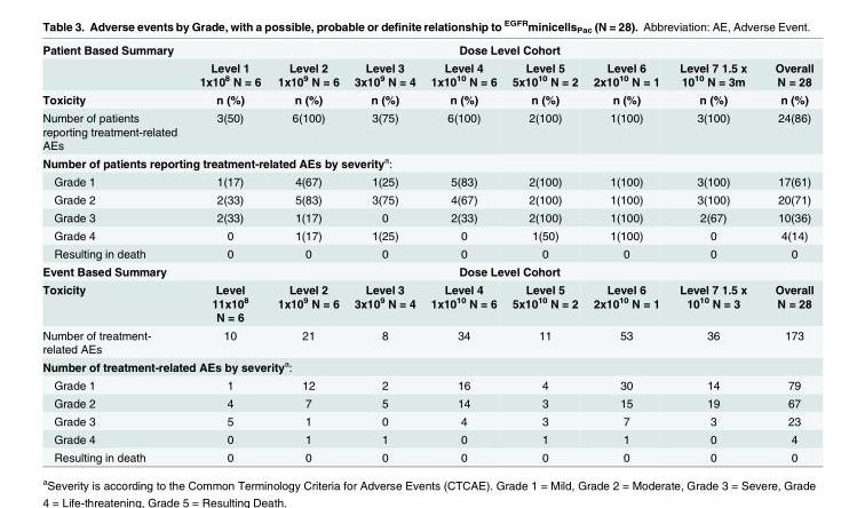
<table><tbody><tr><td rowspan="2">Patient Based Summary</td><td colspan="8">Dose Level Cohort</td></tr><tr><td>Level 1 1x10<sup>8</sup> N = 6</td><td>Level 2 1x10<sup>9</sup> N = 6</td><td>Level 3 3x10<sup>9</sup> N = 4</td><td>Level 4 1x10<sup>10</sup> N = 6</td><td>Level 5 5x10<sup>10</sup> N = 2</td><td>Level 6 2x10<sup>10</sup> N = 1</td><td>Level 7 1.5 x 10<sup>10</sup> N = 3m</td><td>Overall N = 28</td></tr><tr><td>Toxicity</td><td>n (%)</td><td>n (%)</td><td>n (%)</td><td>n (%)</td><td>n (%)</td><td>n (%)</td><td>n (%)</td><td>n (%)</td></tr><tr><td>Number of patients reporting treatment-related AEs</td><td>3(50)</td><td>6(100)</td><td>3(75)</td><td>6(100)</td><td>2(100)</td><td>1(100)</td><td>3(100)</td><td>24(86)</td></tr><tr><td colspan="9">Number of patients reporting treatment-related AEs by severity<sup>a</sup>:</td></tr><tr><td>Grade 1</td><td>1(17)</td><td>4(67)</td><td>1(25)</td><td>5(83)</td><td>2(100)</td><td>1(100)</td><td>3(100)</td><td>17(61)</td></tr><tr><td>Grade 2</td><td>2(33)</td><td>5(83)</td><td>3(75)</td><td>4(67)</td><td>2(100)</td><td>1(100)</td><td>3(100)</td><td>20(71)</td></tr><tr><td>Grade 3</td><td>2(33)</td><td>1(17)</td><td>0</td><td>2(33)</td><td>2(100)</td><td>1(100)</td><td>2(67)</td><td>10(36)</td></tr><tr><td>Grade 4</td><td>0</td><td>1(17)</td><td>1(25)</td><td>0</td><td>1(50)</td><td>1(100)</td><td>0</td><td>4(14)</td></tr><tr><td>Resulting in death</td><td>0</td><td>0</td><td>0</td><td>0</td><td>0</td><td>0</td><td>0</td><td>0</td></tr><tr><td>Event Based Summary</td><td colspan="8">Dose Level Cohort</td></tr><tr><td>Toxicity</td><td>Level 11x10<sup>8</sup> N = 6</td><td>Level 2 1x10<sup>9</sup> N = 6</td><td>Level 3 3x10<sup>9</sup> N = 4</td><td>Level 4 1x10<sup>10</sup> N = 6</td><td>Level 5 5x10<sup>10</sup> N = 2</td><td>Level 6 2x10<sup>10</sup> N = 1</td><td>Level 7 1.5 x 10<sup>10</sup> N = 3</td><td>Overall N = 28</td></tr><tr><td>Number of treatment- related AEs</td><td>10</td><td>21</td><td>8</td><td>34</td><td>11</td><td>53</td><td>36</td><td>173</td></tr><tr><td colspan="9">Number of treatment-related AEs by severity<sup>a</sup>:</td></tr><tr><td>Grade 1</td><td>1</td><td>12</td><td>2</td><td>16</td><td>4</td><td>30</td><td>14</td><td>79</td></tr><tr><td>Grade 2</td><td>4</td><td>7</td><td>5</td><td>14</td><td>3</td><td>15</td><td>19</td><td>67</td></tr><tr><td>Grade 3</td><td>5</td><td>1</td><td>0</td><td>4</td><td>3</td><td>7</td><td>3</td><td>23</td></tr><tr><td>Grade 4</td><td>0</td><td>1</td><td>1</td><td>0</td><td>1</td><td>1</td><td>0</td><td>4</td></tr><tr><td>Resulting in death</td><td>0</td><td>0</td><td>0</td><td>0</td><td>0</td><td>0</td><td>0</td><td>0</td></tr></tbody></table>